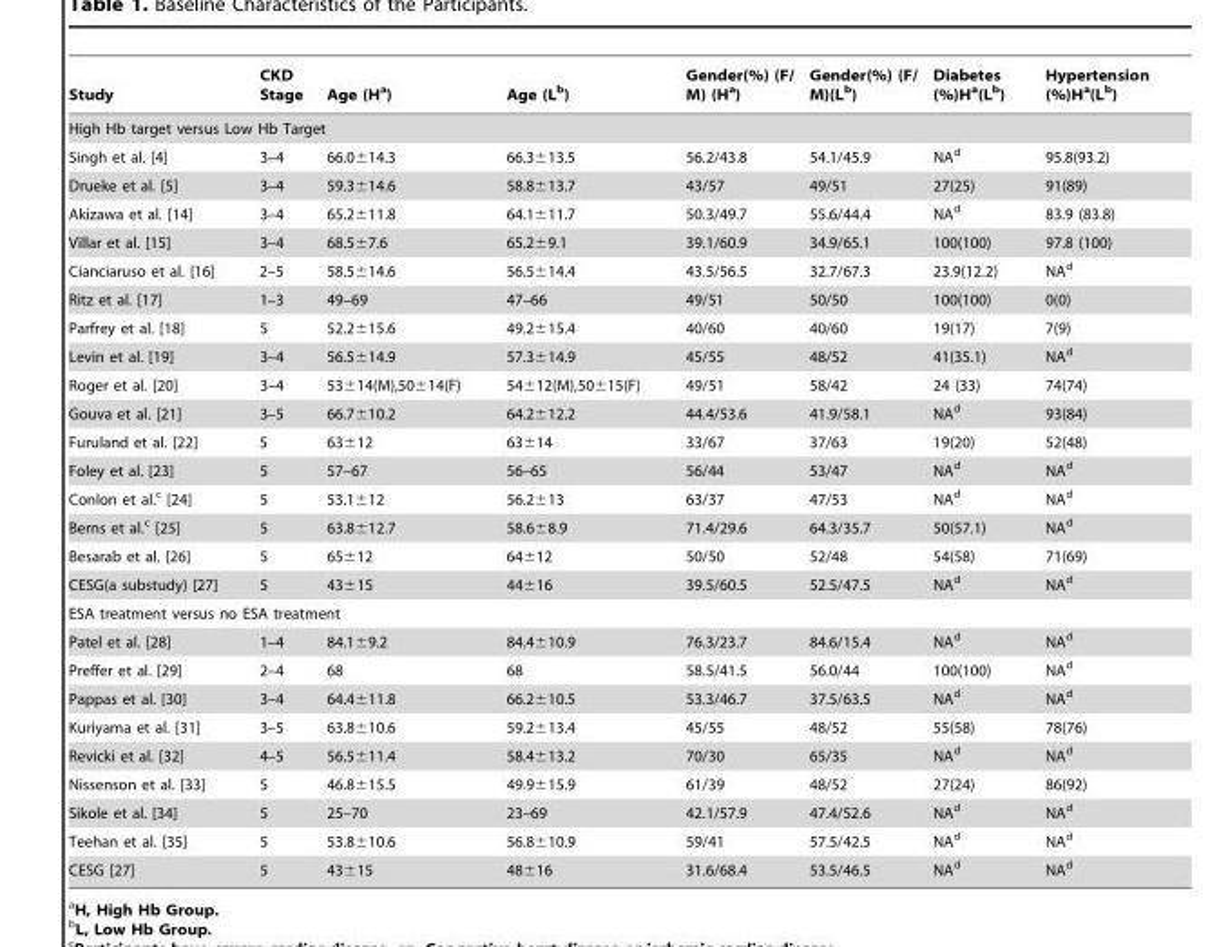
<table><thead><tr><td>Study</td><td>CKD Stage</td><td>Age (H<sup>a</sup>)</td><td>Age (L<sup>b</sup>)</td><td>Gender(%) (F/ M) (H<sup>a</sup>)</td><td>Gender(%) (F/ M)(L<sup>b</sup>)</td><td>Diabetes (%)H<sup>a</sup>(L<sup>b</sup>)</td><td>Hypertension (%)H<sup>a</sup>(L<sup>b</sup>)</td></tr></thead><tbody><tr><td colspan="8">High Hb target versus Low Hb Target</td></tr><tr><td>Singh et al. [4]</td><td>3–4</td><td>66.0±14.3</td><td>66.3±13.5</td><td>56.2/43.8</td><td>54.1/45.9</td><td>NA<sup>d</sup></td><td>95.8(93.2)</td></tr><tr><td>Drueke et al. [5]</td><td>3–4</td><td>59.3±14.6</td><td>58.8±13.7</td><td>43/57</td><td>49/51</td><td>27(25)</td><td>91(89)</td></tr><tr><td>Akizawa et al. [14]</td><td>3–4</td><td>65.2±11.8</td><td>64.1±11.7</td><td>50.3/49.7</td><td>55.6/44.4</td><td>NA<sup>d</sup></td><td>83.9 (83.8)</td></tr><tr><td>Villar et al. [15]</td><td>3–4</td><td>68.5±7.6</td><td>65.2±9.1</td><td>39.1/60.9</td><td>34.9/65.1</td><td>100(100)</td><td>97.8 (100)</td></tr><tr><td>Cianciaruso et al. [16]</td><td>2–5</td><td>58.5±14.6</td><td>56.5±14.4</td><td>43.5/56.5</td><td>32.7/67.3</td><td>23.9(12.2)</td><td>NA<sup>d</sup></td></tr><tr><td>Ritz et al. [17]</td><td>1–3</td><td>49–69</td><td>47–66</td><td>49/51</td><td>50/50</td><td>100(100)</td><td>0(0)</td></tr><tr><td>Parfrey et al. [18]</td><td>5</td><td>52.2±15.6</td><td>49.2±15.4</td><td>40/60</td><td>40/60</td><td>19(17)</td><td>7(9)</td></tr><tr><td>Levin et al. [19]</td><td>3–4</td><td>56.5±14.9</td><td>57.3±14.9</td><td>45/55</td><td>48/52</td><td>41(35.1)</td><td>NA<sup>d</sup></td></tr><tr><td>Roger et al. [20]</td><td>3–4</td><td>53±14(M),50±14(F)</td><td>54±12(M),50±15(F)</td><td>49/51</td><td>58/42</td><td>24 (33)</td><td>74(74)</td></tr><tr><td>Gouva et al. [21]</td><td>3–5</td><td>66.7±10.2</td><td>64.2±12.2</td><td>44.4/53.6</td><td>41.9/58.1</td><td>NA<sup>d</sup></td><td>93(84)</td></tr><tr><td>Furuland et al. [22]</td><td>5</td><td>63±12</td><td>63±14</td><td>33/67</td><td>37/63</td><td>19(20)</td><td>52(48)</td></tr><tr><td>Foley et al. [23]</td><td>5</td><td>57–67</td><td>56–65</td><td>56/44</td><td>53/47</td><td>NA<sup>d</sup></td><td>NA<sup>d</sup></td></tr><tr><td>Conlon et al.<sup>c</sup> [24]</td><td>5</td><td>53.1±12</td><td>56.2±13</td><td>63/37</td><td>47/53</td><td>NA<sup>d</sup></td><td>NA<sup>d</sup></td></tr><tr><td>Berns et al.<sup>c</sup> [25]</td><td>5</td><td>63.8±12.7</td><td>58.6±8.9</td><td>71.4/29.6</td><td>64.3/35.7</td><td>50(57.1)</td><td>NA<sup>d</sup></td></tr><tr><td>Besarab et al. [26]</td><td>5</td><td>65±12</td><td>64±12</td><td>50/50</td><td>52/48</td><td>54(58)</td><td>71(69)</td></tr><tr><td>CESG(a substudy) [27]</td><td>5</td><td>43±15</td><td>44±16</td><td>39.5/60.5</td><td>52.5/47.5</td><td>NA<sup>d</sup></td><td>NA<sup>d</sup></td></tr><tr><td colspan="8">ESA treatment versus no ESA treatment</td></tr><tr><td>Patel et al. [28]</td><td>1–4</td><td>84.1±9.2</td><td>84.4±10.9</td><td>76.3/23.7</td><td>84.6/15.4</td><td>NA<sup>d</sup></td><td>NA<sup>d</sup></td></tr><tr><td>Preffer et al. [29]</td><td>2–4</td><td>68</td><td>68</td><td>58.5/41.5</td><td>56.0/44</td><td>100(100)</td><td>NA<sup>d</sup></td></tr><tr><td>Pappas et al. [30]</td><td>3–4</td><td>64.4±11.8</td><td>66.2±10.5</td><td>53.3/46.7</td><td>37.5/63.5</td><td>NA<sup>d</sup></td><td>NA<sup>d</sup></td></tr><tr><td>Kuriyama et al. [31]</td><td>3–5</td><td>63.8±10.6</td><td>59.2±13.4</td><td>45/55</td><td>48/52</td><td>55(58)</td><td>78(76)</td></tr><tr><td>Revicki et al. [32]</td><td>4–5</td><td>56.5±11.4</td><td>58.4±13.2</td><td>70/30</td><td>65/35</td><td>NA<sup>d</sup></td><td>NA<sup>d</sup></td></tr><tr><td>Nissenson et al. [33]</td><td>5</td><td>46.8±15.5</td><td>49.9±15.9</td><td>61/39</td><td>48/52</td><td>27(24)</td><td>86(92)</td></tr><tr><td>Sikole et al. [34]</td><td>5</td><td>25–70</td><td>23–69</td><td>42.1/57.9</td><td>47.4/52.6</td><td>NA<sup>d</sup></td><td>NA<sup>d</sup></td></tr><tr><td>Teehan et al. [35]</td><td>5</td><td>53.8±10.6</td><td>56.8±10.9</td><td>59/41</td><td>57.5/42.5</td><td>NA<sup>d</sup></td><td>NA<sup>d</sup></td></tr><tr><td>CESG [27]</td><td>5</td><td>43±15</td><td>48±16</td><td>31.6/68.4</td><td>53.5/46.5</td><td>NA<sup>d</sup></td><td>NA<sup>d</sup></td></tr></tbody></table>